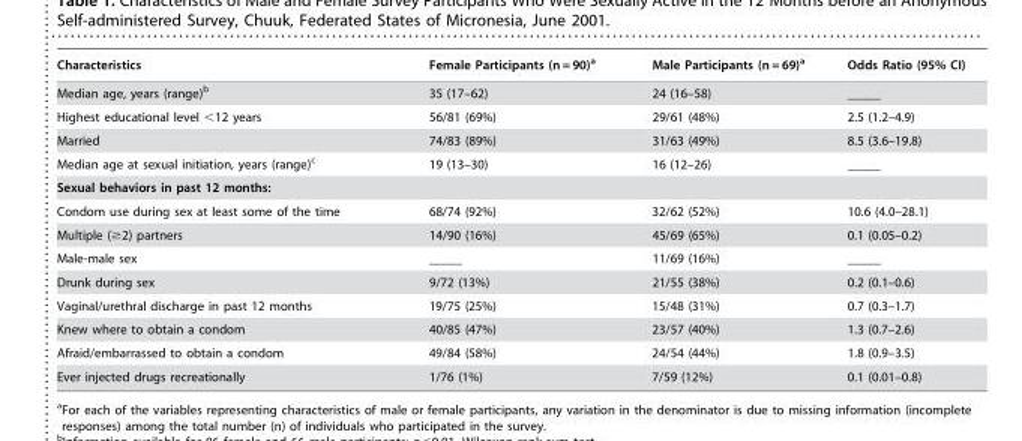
<table><thead><tr><td>Characteristics</td><td>Female Participants (n = 90)<sup>a</sup></td><td>Male Participants (n = 69)<sup>a</sup></td><td>Odds Ratio (95% CI)</td></tr></thead><tbody><tr><td>Median age, years (range)<sup>b</sup></td><td>35 (17–62)</td><td>24 (16–58)</td><td>_____</td></tr><tr><td>Highest educational level &lt;12 years</td><td>56/81 (69%)</td><td>29/61 (48%)</td><td>2.5 (1.2–4.9)</td></tr><tr><td>Married</td><td>74/83 (89%)</td><td>31/63 (49%)</td><td>8.5 (3.6–19.8)</td></tr><tr><td>Median age at sexual initiation, years (range)<sup>c</sup></td><td>19 (13–30)</td><td>16 (12–26)</td><td>_____</td></tr><tr><td colspan="4">Sexual behaviors in past 12 months:</td></tr><tr><td>Condom use during sex at least some of the time</td><td>68/74 (92%)</td><td>32/62 (52%)</td><td>10.6 (4.0–28.1)</td></tr><tr><td>Multiple (≥2) partners</td><td>14/90 (16%)</td><td>45/69 (65%)</td><td>0.1 (0.05–0.2)</td></tr><tr><td>Male-male sex</td><td>_____</td><td>11/69 (16%)</td><td>_____</td></tr><tr><td>Drunk during sex</td><td>9/72 (13%)</td><td>21/55 (38%)</td><td>0.2 (0.1–0.6)</td></tr><tr><td>Vaginal/urethral discharge in past 12 months</td><td>19/75 (25%)</td><td>15/48 (31%)</td><td>0.7 (0.3–1.7)</td></tr><tr><td>Knew where to obtain a condom</td><td>40/85 (47%)</td><td>23/57 (40%)</td><td>1.3 (0.7–2.6)</td></tr><tr><td>Afraid/embarrassed to obtain a condom</td><td>49/84 (58%)</td><td>24/54 (44%)</td><td>1.8 (0.9–3.5)</td></tr><tr><td>Ever injected drugs recreationally</td><td>1/76 (1%)</td><td>7/59 (12%)</td><td>0.1 (0.01–0.8)</td></tr></tbody></table>